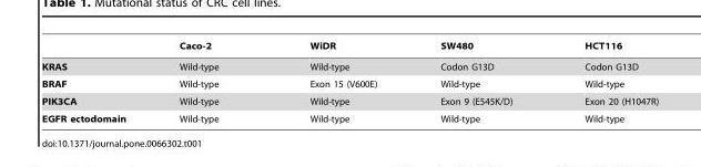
<table><thead><tr><td></td><td>Caco-2</td><td>WiDR</td><td>SW480</td><td>HCT116</td></tr></thead><tbody><tr><td>KRAS</td><td>Wild-type</td><td>Wild-type</td><td>Codon G13D</td><td>Codon G13D</td></tr><tr><td>BRAF</td><td>Wild-type</td><td>Exon 15 (V600E)</td><td>Wild-type</td><td>Wild-type</td></tr><tr><td>PIK3CA</td><td>Wild-type</td><td>Wild-type</td><td>Exon 9 (E545K/D)</td><td>Exon 20 (H1047R)</td></tr><tr><td>EGFR ectodomain</td><td>Wild-type</td><td>Wild-type</td><td>Wild-type</td><td>Wild-type</td></tr></tbody></table>